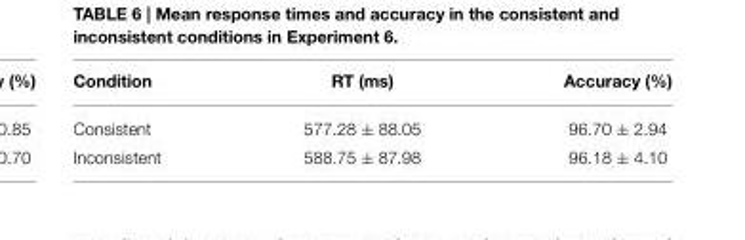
<table><thead><tr><td>Condition</td><td>RT (ms)</td><td>Accuracy (%)</td></tr></thead><tbody><tr><td>Consistent</td><td>577.28 ± 88.05</td><td>96.70 ± 2.94</td></tr><tr><td>Inconsistent</td><td>588.75 ± 87.98</td><td>96.18 ± 4.10</td></tr></tbody></table>